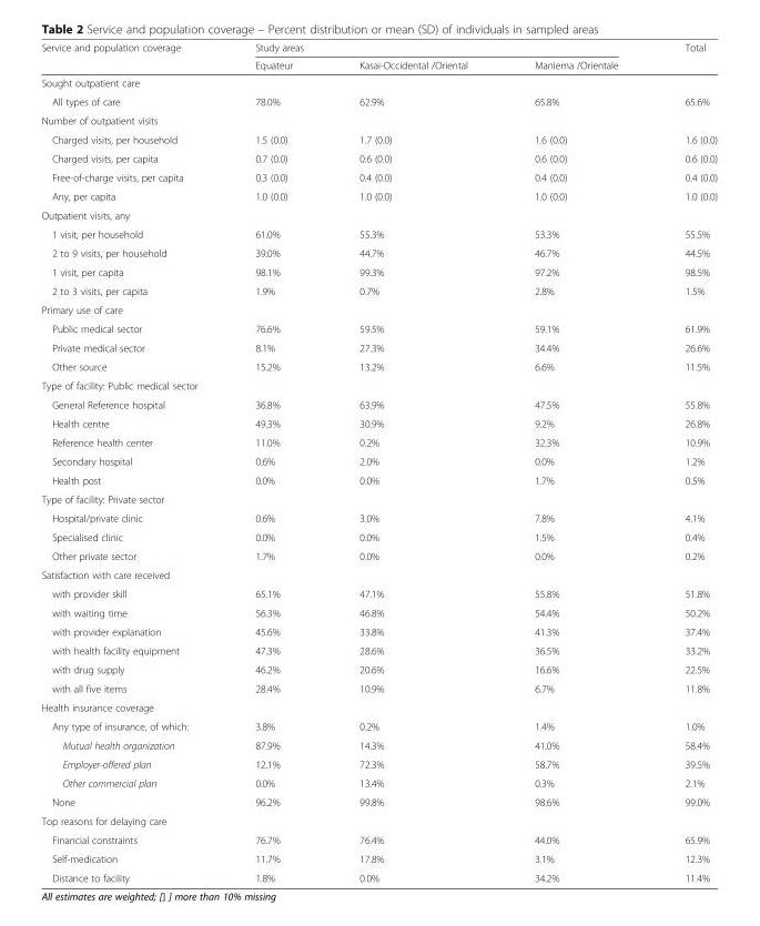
<table><thead><tr><td rowspan="2">Service and population coverage</td><td colspan="3">Study areas</td><td rowspan="2">Total</td></tr><tr><td>Equateur</td><td>Kasai-Occidental /Oriental</td><td>Maniema /Orientale</td></tr></thead><tbody><tr><td colspan="5">Sought outpatient care</td></tr><tr><td>All types of care</td><td>78.0%</td><td>62.9%</td><td>65.8%</td><td>65.6%</td></tr><tr><td colspan="5">Number of outpatient visits</td></tr><tr><td>Charged visits, per household</td><td>1.5 (0.0)</td><td>1.7 (0.0)</td><td>1.6 (0.0)</td><td>1.6 (0.0)</td></tr><tr><td>Charged visits, per capita</td><td>0.7 (0.0)</td><td>0.6 (0.0)</td><td>0.6 (0.0)</td><td>0.6 (0.0)</td></tr><tr><td>Free-of-charge visits, per capita</td><td>0.3 (0.0)</td><td>0.4 (0.0)</td><td>0.4 (0.0)</td><td>0.4 (0.0)</td></tr><tr><td>Any, per capita</td><td>1.0 (0.0)</td><td>1.0 (0.0)</td><td>1.0 (0.0)</td><td>1.0 (0.0)</td></tr><tr><td colspan="5">Outpatient visits, any</td></tr><tr><td>1 visit, per household</td><td>61.0%</td><td>55.3%</td><td>53.3%</td><td>55.5%</td></tr><tr><td>2 to 9 visits, per household</td><td>39.0%</td><td>44.7%</td><td>46.7%</td><td>44.5%</td></tr><tr><td>1 visit, per capita</td><td>98.1%</td><td>99.3%</td><td>97.2%</td><td>98.5%</td></tr><tr><td>2 to 3 visits, per capita</td><td>1.9%</td><td>0.7%</td><td>2.8%</td><td>1.5%</td></tr><tr><td colspan="5">Primary use of care</td></tr><tr><td>Public medical sector</td><td>76.6%</td><td>59.5%</td><td>59.1%</td><td>61.9%</td></tr><tr><td>Private medical sector</td><td>8.1%</td><td>27.3%</td><td>34.4%</td><td>26.6%</td></tr><tr><td>Other source</td><td>15.2%</td><td>13.2%</td><td>6.6%</td><td>11.5%</td></tr><tr><td colspan="5">Type of facility: Public medical sector</td></tr><tr><td>General Reference hospital</td><td>36.8%</td><td>63.9%</td><td>47.5%</td><td>55.8%</td></tr><tr><td>Health centre</td><td>49.3%</td><td>30.9%</td><td>9.2%</td><td>26.8%</td></tr><tr><td>Reference health center</td><td>11.0%</td><td>0.2%</td><td>32.3%</td><td>10.9%</td></tr><tr><td>Secondary hospital</td><td>0.6%</td><td>2.0%</td><td>0.0%</td><td>1.2%</td></tr><tr><td>Health post</td><td>0.0%</td><td>0.0%</td><td>1.7%</td><td>0.5%</td></tr><tr><td colspan="5">Type of facility: Private sector</td></tr><tr><td>Hospital/private clinic</td><td>0.6%</td><td>3.0%</td><td>7.8%</td><td>4.1%</td></tr><tr><td>Specialised clinic</td><td>0.0%</td><td>0.0%</td><td>1.5%</td><td>0.4%</td></tr><tr><td>Other private sector</td><td>1.7%</td><td>0.0%</td><td>0.0%</td><td>0.2%</td></tr><tr><td colspan="5">Satisfaction with care received</td></tr><tr><td>with provider skill</td><td>65.1%</td><td>47.1%</td><td>55.8%</td><td>51.8%</td></tr><tr><td>with waiting time</td><td>56.3%</td><td>46.8%</td><td>54.4%</td><td>50.2%</td></tr><tr><td>with provider explanation</td><td>45.6%</td><td>33.8%</td><td>41.3%</td><td>37.4%</td></tr><tr><td>with health facility equipment</td><td>47.3%</td><td>28.6%</td><td>36.5%</td><td>33.2%</td></tr><tr><td>with drug supply</td><td>46.2%</td><td>20.6%</td><td>16.6%</td><td>22.5%</td></tr><tr><td>with all five items</td><td>28.4%</td><td>10.9%</td><td>6.7%</td><td>11.8%</td></tr><tr><td colspan="5">Health insurance coverage</td></tr><tr><td>Any type of insurance, of which:</td><td>3.8%</td><td>0.2%</td><td>1.4%</td><td>1.0%</td></tr><tr><td>Mutual health organization</td><td>87.9%</td><td>14.3%</td><td>41.0%</td><td>58.4%</td></tr><tr><td>Employer-offered plan</td><td>12.1%</td><td>72.3%</td><td>58.7%</td><td>39.5%</td></tr><tr><td>Other commercial plan</td><td>0.0%</td><td>13.4%</td><td>0.3%</td><td>2.1%</td></tr><tr><td>None</td><td>96.2%</td><td>99.8%</td><td>98.6%</td><td>99.0%</td></tr><tr><td colspan="5">Top reasons for delaying care</td></tr><tr><td>Financial constraints</td><td>76.7%</td><td>76.4%</td><td>44.0%</td><td>65.9%</td></tr><tr><td>Self-medication</td><td>11.7%</td><td>17.8%</td><td>3.1%</td><td>12.3%</td></tr><tr><td>Distance to facility</td><td>1.8%</td><td>0.0%</td><td>34.2%</td><td>11.4%</td></tr></tbody></table>